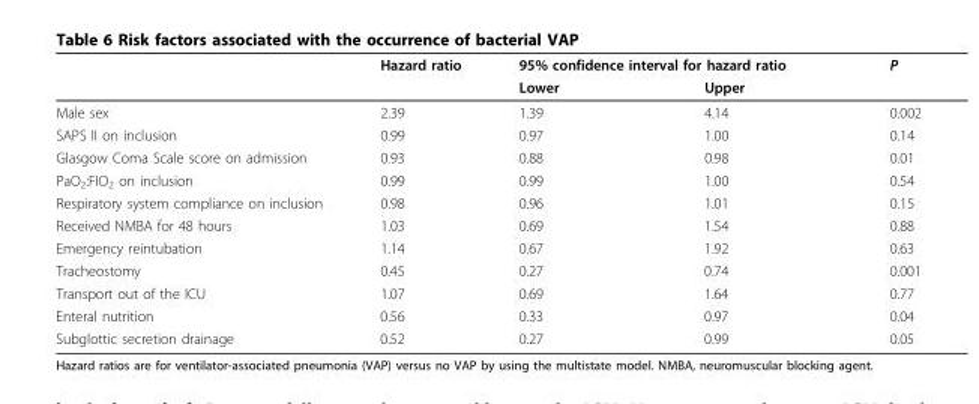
<table><thead><tr><td rowspan="2"></td><td rowspan="2">Hazard ratio</td><td colspan="2">95% confidence interval for hazard ratio</td><td rowspan="2">P</td></tr><tr><td>Lower</td><td>Upper</td></tr></thead><tbody><tr><td>Male sex</td><td>2.39</td><td>1.39</td><td>4.14</td><td>0.002</td></tr><tr><td>SAPS II on inclusion</td><td>0.99</td><td>0.97</td><td>1.00</td><td>0.14</td></tr><tr><td>Glasgow Coma Scale score on admission</td><td>0.93</td><td>0.88</td><td>0.98</td><td>0.01</td></tr><tr><td>PaO<sub>2</sub>:FIO<sub>2</sub> on inclusion</td><td>0.99</td><td>0.99</td><td>1.00</td><td>0.54</td></tr><tr><td>Respiratory system compliance on inclusion</td><td>0.98</td><td>0.96</td><td>1.01</td><td>0.15</td></tr><tr><td>Received NMBA for 48 hours</td><td>1.03</td><td>0.69</td><td>1.54</td><td>0.88</td></tr><tr><td>Emergency reintubation</td><td>1.14</td><td>0.67</td><td>1.92</td><td>0.63</td></tr><tr><td>Tracheostomy</td><td>0.45</td><td>0.27</td><td>0.74</td><td>0.001</td></tr><tr><td>Transport out of the ICU</td><td>1.07</td><td>0.69</td><td>1.64</td><td>0.77</td></tr><tr><td>Enteral nutrition</td><td>0.56</td><td>0.33</td><td>0.97</td><td>0.04</td></tr><tr><td>Subglottic secretion drainage</td><td>0.52</td><td>0.27</td><td>0.99</td><td>0.05</td></tr></tbody></table>